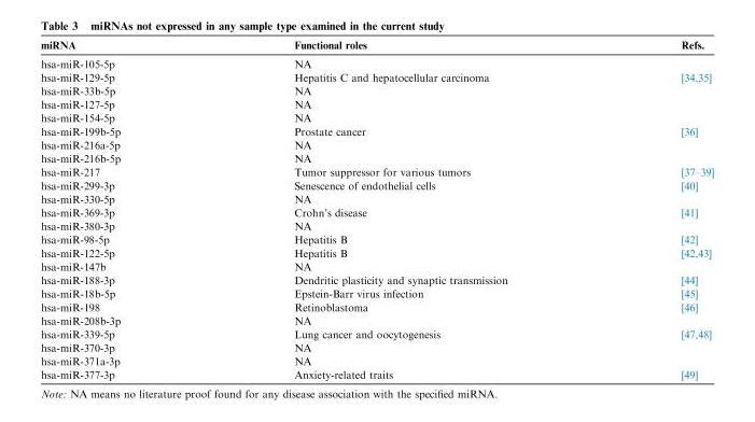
<table><thead><tr><td>miRNA</td><td>Functional roles</td><td>Refs.</td></tr></thead><tbody><tr><td>hsa-miR-105-5p</td><td>NA</td><td></td></tr><tr><td>hsa-miR-129-5p</td><td>Hepatitis C and hepatocellular carcinoma</td><td>[34,35]</td></tr><tr><td>hsa-miR-33b-5p</td><td>NA</td><td></td></tr><tr><td>hsa-miR-127-5p</td><td>NA</td><td></td></tr><tr><td>hsa-miR-154-5p</td><td>NA</td><td></td></tr><tr><td>hsa-miR-199b-5p</td><td>Prostate cancer</td><td>[36]</td></tr><tr><td>hsa-miR-216a-5p</td><td>NA</td><td></td></tr><tr><td>hsa-miR-216b-5p</td><td>NA</td><td></td></tr><tr><td>hsa-miR-217</td><td>Tumor suppressor for various tumors</td><td>[37–39]</td></tr><tr><td>hsa-miR-299-3p</td><td>Senescence of endothelial cells</td><td>[40]</td></tr><tr><td>hsa-miR-330-5p</td><td>NA</td><td></td></tr><tr><td>hsa-miR-369-3p</td><td>Crohn’s disease</td><td>[41]</td></tr><tr><td>hsa-miR-380-3p</td><td>NA</td><td></td></tr><tr><td>hsa-miR-98-5p</td><td>Hepatitis B</td><td>[42]</td></tr><tr><td>hsa-miR-122-5p</td><td>Hepatitis B</td><td>[42,43]</td></tr><tr><td>hsa-miR-147b</td><td>NA</td><td></td></tr><tr><td>hsa-miR-188-3p</td><td>Dendritic plasticity and synaptic transmission</td><td>[44]</td></tr><tr><td>hsa-miR-18b-5p</td><td>Epstein-Barr virus infection</td><td>[45]</td></tr><tr><td>hsa-miR-198</td><td>Retinoblastoma</td><td>[46]</td></tr><tr><td>hsa-miR-208b-3p</td><td>NA</td><td></td></tr><tr><td>hsa-miR-339-5p</td><td>Lung cancer and oocytogenesis</td><td>[47,48]</td></tr><tr><td>hsa-miR-370-3p</td><td>NA</td><td></td></tr><tr><td>hsa-miR-371a-3p</td><td>NA</td><td></td></tr><tr><td>hsa-miR-377-3p</td><td>Anxiety-related traits</td><td>[49]</td></tr></tbody></table>